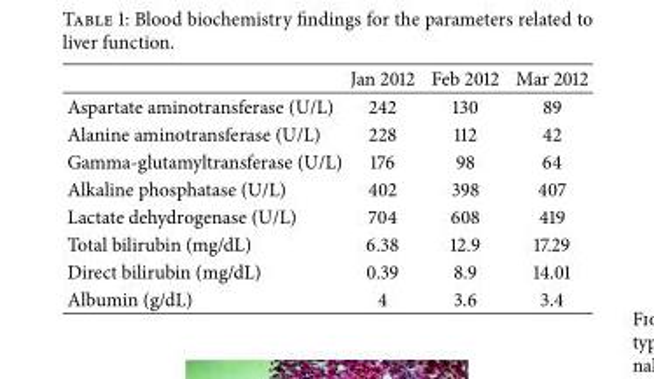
<table><thead><tr><td></td><td>Jan 2012</td><td>Feb 2012</td><td>Mar 2012</td></tr></thead><tbody><tr><td>Aspartate aminotransferase (U/L)</td><td>242</td><td>130</td><td>89</td></tr><tr><td>Alanine aminotransferase (U/L)</td><td>228</td><td>112</td><td>42</td></tr><tr><td>Gamma-glutamyltransferase (U/L)</td><td>176</td><td>98</td><td>64</td></tr><tr><td>Alkaline phosphatase (U/L)</td><td>402</td><td>398</td><td>407</td></tr><tr><td>Lactate dehydrogenase (U/L)</td><td>704</td><td>608</td><td>419</td></tr><tr><td>Total bilirubin (mg/dL)</td><td>6.38</td><td>12.9</td><td>17.29</td></tr><tr><td>Direct bilirubin (mg/dL)</td><td>0.39</td><td>8.9</td><td>14.01</td></tr><tr><td>Albumin (g/dL)</td><td>4</td><td>3.6</td><td>3.4</td></tr></tbody></table>